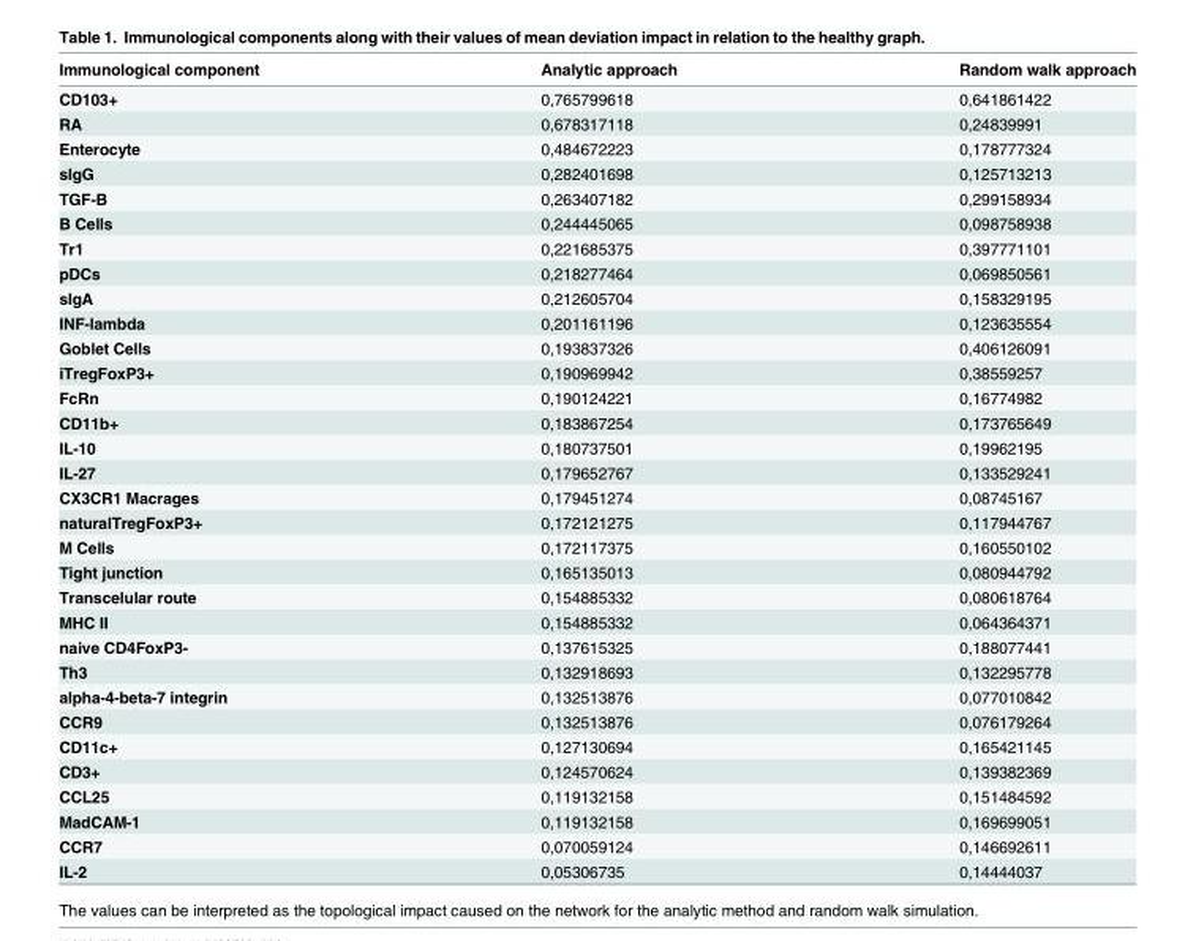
<table><thead><tr><td>Immunological component</td><td>Analytic approach</td><td>Random walk approach</td></tr></thead><tbody><tr><td>CD103+</td><td>0,765799618</td><td>0,641861422</td></tr><tr><td>RA</td><td>0,678317118</td><td>0,24839991</td></tr><tr><td>Enterocyte</td><td>0,484672223</td><td>0,178777324</td></tr><tr><td>sIgG</td><td>0,282401698</td><td>0,125713213</td></tr><tr><td>TGF-B</td><td>0,263407182</td><td>0,299158934</td></tr><tr><td>B Cells</td><td>0,244445065</td><td>0,098758938</td></tr><tr><td>Tr1</td><td>0,221685375</td><td>0,397771101</td></tr><tr><td>pDCs</td><td>0,218277464</td><td>0,069850561</td></tr><tr><td>sIgA</td><td>0,212605704</td><td>0,158329195</td></tr><tr><td>INF-lambda</td><td>0,201161196</td><td>0,123635554</td></tr><tr><td>Goblet Cells</td><td>0,193837326</td><td>0,406126091</td></tr><tr><td>iTregFoxP3+</td><td>0,190969942</td><td>0,38559257</td></tr><tr><td>FcRn</td><td>0,190124221</td><td>0,16774982</td></tr><tr><td>CD11b+</td><td>0,183867254</td><td>0,173765649</td></tr><tr><td>IL-10</td><td>0,180737501</td><td>0,19962195</td></tr><tr><td>IL-27</td><td>0,179652767</td><td>0,133529241</td></tr><tr><td>CX3CR1 Macrages</td><td>0,179451274</td><td>0,08745167</td></tr><tr><td>naturalTregFoxP3+</td><td>0,172121275</td><td>0,117944767</td></tr><tr><td>M Cells</td><td>0,172117375</td><td>0,160550102</td></tr><tr><td>Tight junction</td><td>0,165135013</td><td>0,080944792</td></tr><tr><td>Transcelular route</td><td>0,154885332</td><td>0,080618764</td></tr><tr><td>MHC II</td><td>0,154885332</td><td>0,064364371</td></tr><tr><td>naive CD4FoxP3-</td><td>0,137615325</td><td>0,188077441</td></tr><tr><td>Th3</td><td>0,132918693</td><td>0,132295778</td></tr><tr><td>alpha-4-beta-7 integrin</td><td>0,132513876</td><td>0,077010842</td></tr><tr><td>CCR9</td><td>0,132513876</td><td>0,076179264</td></tr><tr><td>CD11c+</td><td>0,127130694</td><td>0,165421145</td></tr><tr><td>CD3+</td><td>0,124570624</td><td>0,139382369</td></tr><tr><td>CCL25</td><td>0,119132158</td><td>0,151484592</td></tr><tr><td>MadCAM-1</td><td>0,119132158</td><td>0,169699051</td></tr><tr><td>CCR7</td><td>0,070059124</td><td>0,146692611</td></tr><tr><td>IL-2</td><td>0,05306735</td><td>0,14444037</td></tr></tbody></table>